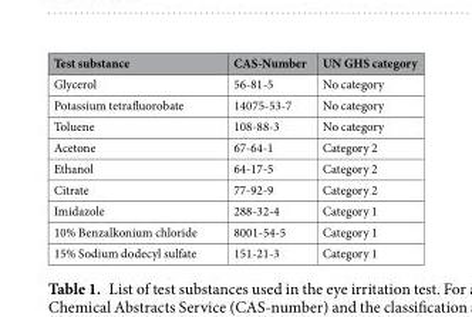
<table><thead><tr><td>Test substance</td><td>CAS-Number</td><td>UN GHS category</td></tr></thead><tbody><tr><td>Glycerol</td><td>56-81-5</td><td>No category</td></tr><tr><td>Potassium tetrafluorobate</td><td>14075-53-7</td><td>No category</td></tr><tr><td>Toluene</td><td>108-88-3</td><td>No category</td></tr><tr><td>Acetone</td><td>67-64-1</td><td>Category 2</td></tr><tr><td>Ethanol</td><td>64-17-5</td><td>Category 2</td></tr><tr><td>Citrate</td><td>77-92-9</td><td>Category 2</td></tr><tr><td>Imidazole</td><td>288-32-4</td><td>Category 1</td></tr><tr><td>10% Benzalkonium chloride</td><td>8001-54-5</td><td>Category 1</td></tr><tr><td>15% Sodium dodecyl sulfate</td><td>151-21-3</td><td>Category 1</td></tr></tbody></table>